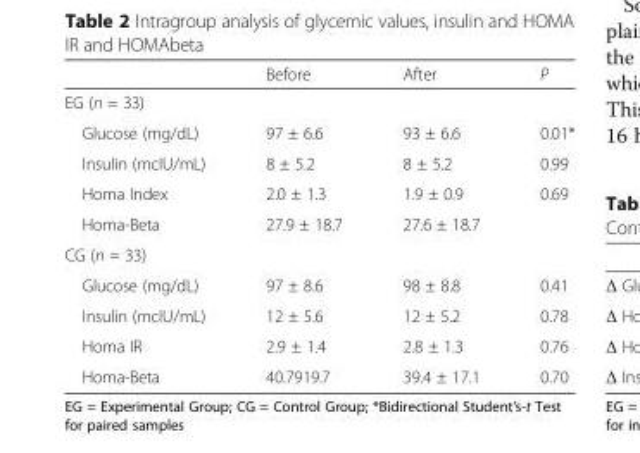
<table><thead><tr><td></td><td>Before</td><td>After</td><td>P</td></tr></thead><tbody><tr><td colspan="4">EG (n = 33)</td></tr><tr><td>Glucose (mg/dL)</td><td>97 ± 6.6</td><td>93 ± 6.6</td><td>0.01*</td></tr><tr><td>Insulin (mcIU/mL)</td><td>8 ± 5.2</td><td>8 ± 5.2</td><td>0.99</td></tr><tr><td>Homa Index</td><td>2.0 ± 1.3</td><td>1.9 ± 0.9</td><td>0.69</td></tr><tr><td>Homa-Beta</td><td>27.9 ± 18.7</td><td>27.6 ± 18.7</td><td></td></tr><tr><td colspan="4">CG (n = 33)</td></tr><tr><td>Glucose (mg/dL)</td><td>97 ± 8.6</td><td>98 ± 8.8</td><td>0.41</td></tr><tr><td>Insulin (mcIU/mL)</td><td>12 ± 5.6</td><td>12 ± 5.2</td><td>0.78</td></tr><tr><td>Homa IR</td><td>2.9 ± 1.4</td><td>2.8 ± 1.3</td><td>0.76</td></tr><tr><td>Homa-Beta</td><td>40.7919.7</td><td>39.4 ± 17.1</td><td>0.70</td></tr></tbody></table>